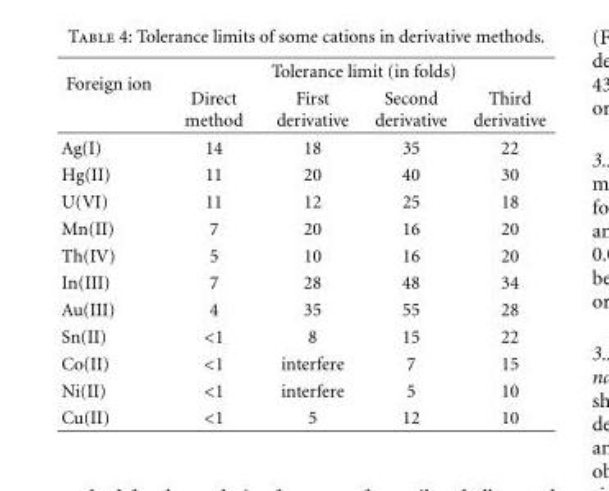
<table><thead><tr><td rowspan="2">Foreign ion</td><td colspan="4">Tolerance limit (in folds)</td></tr><tr><td>Direct method</td><td>First derivative</td><td>Second derivative</td><td>Third derivative</td></tr></thead><tbody><tr><td>Ag(I)</td><td>14</td><td>18</td><td>35</td><td>22</td></tr><tr><td>Hg(II)</td><td>11</td><td>20</td><td>40</td><td>30</td></tr><tr><td>U(VI)</td><td>11</td><td>12</td><td>25</td><td>18</td></tr><tr><td>Mn(II)</td><td>7</td><td>20</td><td>16</td><td>20</td></tr><tr><td>Th(IV)</td><td>5</td><td>10</td><td>16</td><td>20</td></tr><tr><td>In(III)</td><td>7</td><td>28</td><td>48</td><td>34</td></tr><tr><td>Au(III)</td><td>4</td><td>35</td><td>55</td><td>28</td></tr><tr><td>Sn(II)</td><td>&lt;1</td><td>8</td><td>15</td><td>22</td></tr><tr><td>Co(II)</td><td>&lt;1</td><td>interfere</td><td>7</td><td>15</td></tr><tr><td>Ni(II)</td><td>&lt;1</td><td>interfere</td><td>5</td><td>10</td></tr><tr><td>Cu(II)</td><td>&lt;1</td><td>5</td><td>12</td><td>10</td></tr></tbody></table>